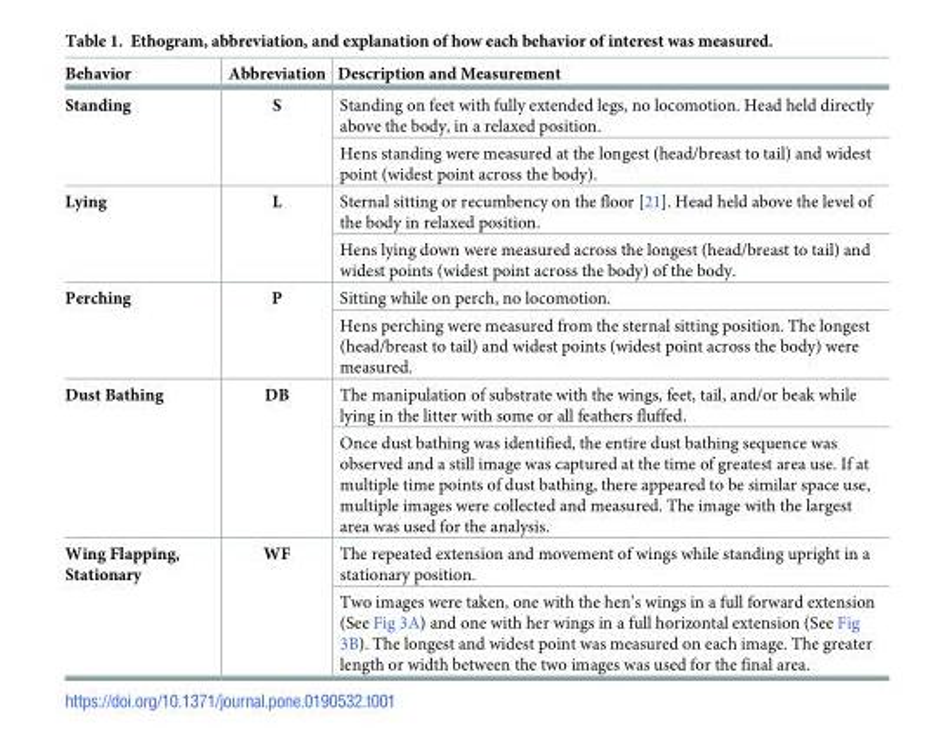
<table><thead><tr><td>Behavior</td><td>Abbreviation</td><td>Description and Measurement</td></tr></thead><tbody><tr><td rowspan="2">Standing</td><td rowspan="2">S</td><td>Standing on feet with fully extended legs, no locomotion. Head held directly above the body, in a relaxed position.</td></tr><tr><td>Hens standing were measured at the longest (head/breast to tail) and widest point (widest point across the body).</td></tr><tr><td rowspan="2">Lying</td><td rowspan="2">L</td><td>Sternal sitting or recumbency on the floor [21]. Head held above the level of the body in relaxed position.</td></tr><tr><td>Hens lying down were measured across the longest (head/breast to tail) and widest points (widest point across the body) of the body.</td></tr><tr><td rowspan="2">Perching</td><td rowspan="2">P</td><td>Sitting while on perch, no locomotion.</td></tr><tr><td>Hens perching were measured from the sternal sitting position. The longest (head/breast to tail) and widest points (widest point across the body) were measured.</td></tr><tr><td rowspan="2">Dust Bathing</td><td rowspan="2">DB</td><td>The manipulation of substrate with the wings, feet, tail, and/or beak while lying in the litter with some or all feathers fluffed.</td></tr><tr><td>Once dust bathing was identified, the entire dust bathing sequence was observed and a still image was captured at the time of greatest area use. If at multiple time points of dust bathing, there appeared to be similar space use, multiple images were collected and measured. The image with the largest area was used for the analysis.</td></tr><tr><td rowspan="2">Wing Flapping, Stationary</td><td rowspan="2">WF</td><td>The repeated extension and movement of wings while standing upright in a stationary position.</td></tr><tr><td>Two images were taken, one with the hen’s wings in a full forward extension (See Fig 3A) and one with her wings in a full horizontal extension (See Fig 3B). The longest and widest point was measured on each image. The greater length or width between the two images was used for the final area.</td></tr></tbody></table>